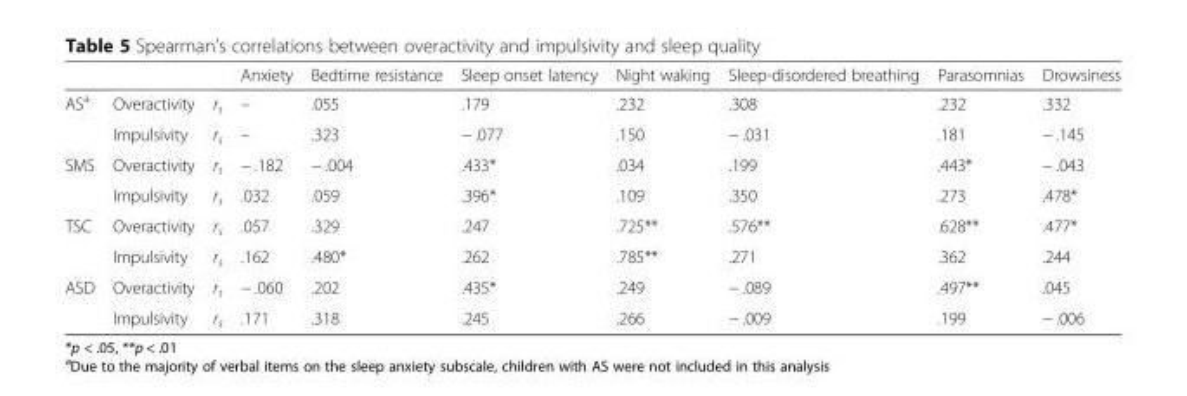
<table><thead><tr><td></td><td></td><td></td><td>Anxiety</td><td>Bedtime resistance</td><td>Sleep onset latency</td><td>Night waking</td><td>Sleep-disordered breathing</td><td>Parasomnias</td><td>Drowsiness</td></tr></thead><tbody><tr><td rowspan="2">AS<sup>a</sup></td><td>Overactivity</td><td>r<sub>s</sub></td><td>–</td><td>.055</td><td>.179</td><td>.232</td><td>.308</td><td>.232</td><td>.332</td></tr><tr><td>Impulsivity</td><td>r<sub>s</sub></td><td>–</td><td>.323</td><td>− .077</td><td>.150</td><td>− .031</td><td>.181</td><td>− .145</td></tr><tr><td rowspan="2">SMS</td><td>Overactivity</td><td>r<sub>s</sub></td><td>− .182</td><td>− .004</td><td>.433*</td><td>.034</td><td>.199</td><td>.443*</td><td>− .043</td></tr><tr><td>Impulsivity</td><td>r<sub>s</sub></td><td>.032</td><td>.059</td><td>.396*</td><td>.109</td><td>.350</td><td>.273</td><td>.478*</td></tr><tr><td rowspan="2">TSC</td><td>Overactivity</td><td>r<sub>s</sub></td><td>.057</td><td>.329</td><td>.247</td><td>.725**</td><td>.576**</td><td>.628**</td><td>.477*</td></tr><tr><td>Impulsivity</td><td>r<sub>s</sub></td><td>.162</td><td>.480*</td><td>.262</td><td>.785**</td><td>.271</td><td>.362</td><td>.244</td></tr><tr><td rowspan="2">ASD</td><td>Overactivity</td><td>r<sub>s</sub></td><td>− .060</td><td>.202</td><td>.435*</td><td>.249</td><td>− .089</td><td>.497**</td><td>.045</td></tr><tr><td>Impulsivity</td><td>r<sub>s</sub></td><td>.171</td><td>.318</td><td>.245</td><td>.266</td><td>− .009</td><td>.199</td><td>− .006</td></tr></tbody></table>